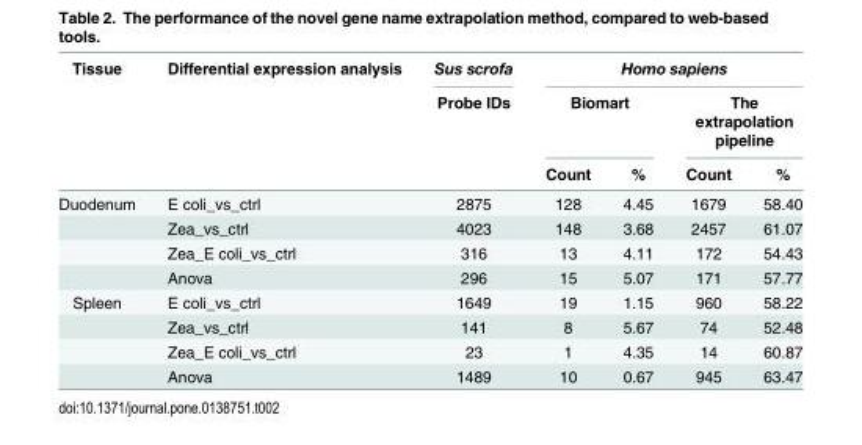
<table><thead><tr><td rowspan="3">Tissue</td><td rowspan="3">Differential expression analysis</td><td rowspan="3">Sus scrofa Probe IDs</td><td colspan="4">Homo sapiens</td></tr><tr><td colspan="2">Biomart</td><td colspan="2">The extrapolation pipeline</td></tr><tr><td>Count</td><td>%</td><td>Count</td><td>%</td></tr></thead><tbody><tr><td rowspan="4">Duodenum</td><td>E coli_vs_ctrl</td><td>2875</td><td>128</td><td>4.45</td><td>1679</td><td>58.40</td></tr><tr><td>Zea_vs_ctrl</td><td>4023</td><td>148</td><td>3.68</td><td>2457</td><td>61.07</td></tr><tr><td>Zea_E coli_vs_ctrl</td><td>316</td><td>13</td><td>4.11</td><td>172</td><td>54.43</td></tr><tr><td>Anova</td><td>296</td><td>15</td><td>5.07</td><td>171</td><td>57.77</td></tr><tr><td rowspan="4">Spleen</td><td>E coli_vs_ctrl</td><td>1649</td><td>19</td><td>1.15</td><td>960</td><td>58.22</td></tr><tr><td>Zea_vs_ctrl</td><td>141</td><td>8</td><td>5.67</td><td>74</td><td>52.48</td></tr><tr><td>Zea_E coli_vs_ctrl</td><td>23</td><td>1</td><td>4.35</td><td>14</td><td>60.87</td></tr><tr><td>Anova</td><td>1489</td><td>10</td><td>0.67</td><td>945</td><td>63.47</td></tr></tbody></table>